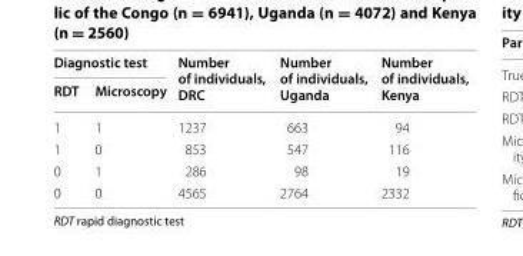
<table><thead><tr><td colspan="2">Diagnostic test</td><td rowspan="2">Number of individuals, DRC</td><td rowspan="2">Number of individuals, Uganda</td><td rowspan="2">Number of individuals, Kenya</td></tr><tr><td>RDT</td><td>Microscopy</td></tr></thead><tbody><tr><td>1</td><td>1</td><td>1237</td><td>663</td><td>94</td></tr><tr><td>1</td><td>0</td><td>853</td><td>547</td><td>116</td></tr><tr><td>0</td><td>1</td><td>286</td><td>98</td><td>19</td></tr><tr><td>0</td><td>0</td><td>4565</td><td>2764</td><td>2332</td></tr></tbody></table>